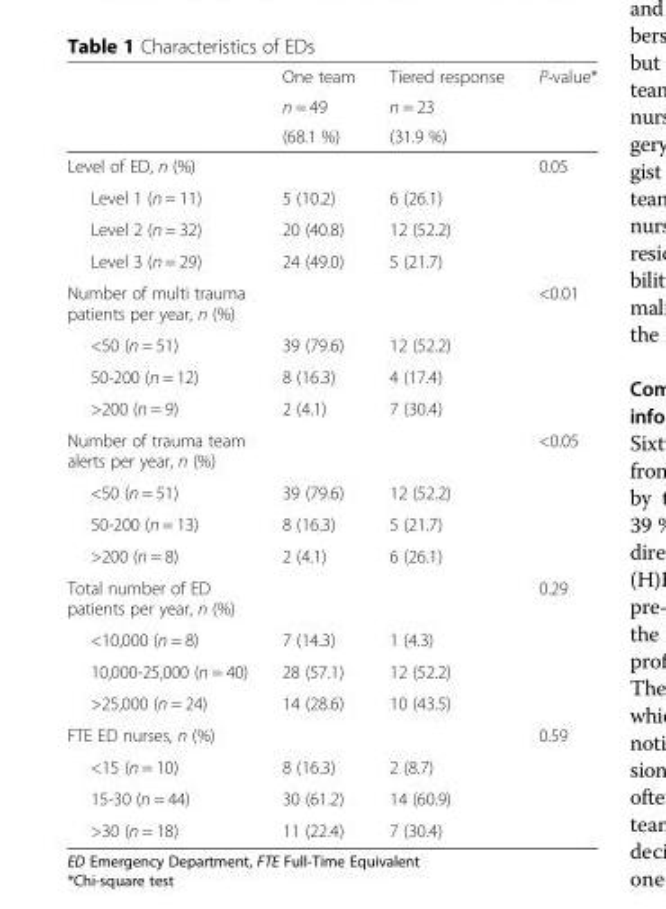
<table><thead><tr><td rowspan="3"></td><td rowspan="3">One team n = 49 (68.1 %)</td><td rowspan="3">Tiered response n = 23 (31.9 %)</td><td rowspan="3">P-value*</td></tr><tr></tr><tr></tr></thead><tbody><tr><td colspan="3">Level of ED, n (%)</td><td rowspan="4">0.05</td></tr><tr><td>Level 1 (n = 11)</td><td>5 (10.2)</td><td>6 (26.1)</td></tr><tr><td>Level 2 (n = 32)</td><td>20 (40.8)</td><td>12 (52.2)</td></tr><tr><td>Level 3 (n = 29)</td><td>24 (49.0)</td><td>5 (21.7)</td></tr><tr><td colspan="3">Number of multi trauma patients per year, n (%)</td><td rowspan="4">&lt;0.01</td></tr><tr><td>&lt;50 (n = 51)</td><td>39 (79.6)</td><td>12 (52.2)</td></tr><tr><td>50-200 (n = 12)</td><td>8 (16.3)</td><td>4 (17.4)</td></tr><tr><td>&gt;200 (n = 9)</td><td>2 (4.1)</td><td>7 (30.4)</td></tr><tr><td colspan="3">Number of trauma team alerts per year, n (%)</td><td rowspan="4">&lt;0.05</td></tr><tr><td>&lt;50 (n = 51)</td><td>39 (79.6)</td><td>12 (52.2)</td></tr><tr><td>50-200 (n = 13)</td><td>8 (16.3)</td><td>5 (21.7)</td></tr><tr><td>&gt;200 (n = 8)</td><td>2 (4.1)</td><td>6 (26.1)</td></tr><tr><td colspan="3">Total number of ED patients per year, n (%)</td><td rowspan="4">0.29</td></tr><tr><td>&lt;10,000 (n = 8)</td><td>7 (14.3)</td><td>1 (4.3)</td></tr><tr><td>10,000-25,000 (n = 40)</td><td>28 (57.1)</td><td>12 (52.2)</td></tr><tr><td>&gt;25,000 (n = 24)</td><td>14 (28.6)</td><td>10 (43.5)</td></tr><tr><td colspan="3">FTE ED nurses, n (%)</td><td rowspan="4">0.59</td></tr><tr><td>&lt;15 (n = 10)</td><td>8 (16.3)</td><td>2 (8.7)</td></tr><tr><td>15-30 (n = 44)</td><td>30 (61.2)</td><td>14 (60.9)</td></tr><tr><td>&gt;30 (n = 18)</td><td>11 (22.4)</td><td>7 (30.4)</td></tr></tbody></table>